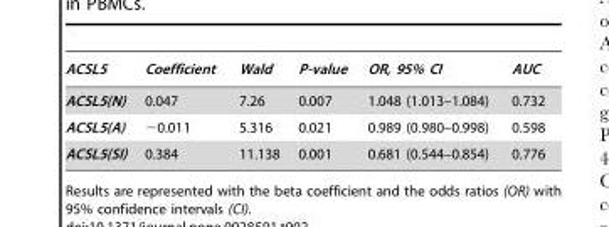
<table><thead><tr><td>ACSL5</td><td>Coefficient</td><td>Wald</td><td>P-value</td><td>OR, 95% CI</td><td>AUC</td></tr></thead><tbody><tr><td>ACSL5(N)</td><td>0.047</td><td>7.26</td><td>0.007</td><td>1.048 (1.013–1.084)</td><td>0.732</td></tr><tr><td>ACSL5(A)</td><td>−0.011</td><td>5.316</td><td>0.021</td><td>0.989 (0.980–0.998)</td><td>0.598</td></tr><tr><td>ACSL5(SI)</td><td>0.384</td><td>11.138</td><td>0.001</td><td>0.681 (0.544–0.854)</td><td>0.776</td></tr></tbody></table>